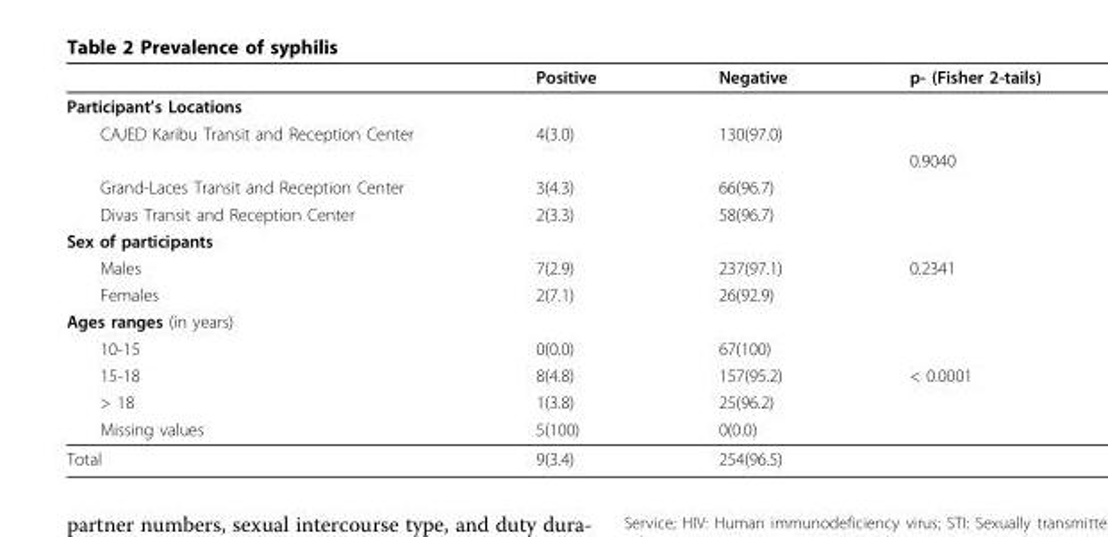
<table><thead><tr><td></td><td>Positive</td><td>Negative</td><td>p- (Fisher 2-tails)</td></tr></thead><tbody><tr><td colspan="4">Participant’s Locations</td></tr><tr><td rowspan="2">CAJED Karibu Transit and Reception Center</td><td>4(3.0)</td><td>130(97.0)</td><td></td></tr><tr><td></td><td></td><td>0.9040</td></tr><tr><td>Grand-Laces Transit and Reception Center</td><td>3(4.3)</td><td>66(96.7)</td><td></td></tr><tr><td>Divas Transit and Reception Center</td><td>2(3.3)</td><td>58(96.7)</td><td></td></tr><tr><td colspan="4">Sex of participants</td></tr><tr><td>Males</td><td>7(2.9)</td><td>237(97.1)</td><td>0.2341</td></tr><tr><td>Females</td><td>2(7.1)</td><td>26(92.9)</td><td></td></tr><tr><td colspan="4">Ages ranges (in years)</td></tr><tr><td>10-15</td><td>0(0.0)</td><td>67(100)</td><td></td></tr><tr><td>15-18</td><td>8(4.8)</td><td>157(95.2)</td><td>&lt; 0.0001</td></tr><tr><td>&gt; 18</td><td>1(3.8)</td><td>25(96.2)</td><td></td></tr><tr><td>Missing values</td><td>5(100)</td><td>0(0.0)</td><td></td></tr><tr><td>Total</td><td>9(3.4)</td><td>254(96.5)</td><td></td></tr></tbody></table>